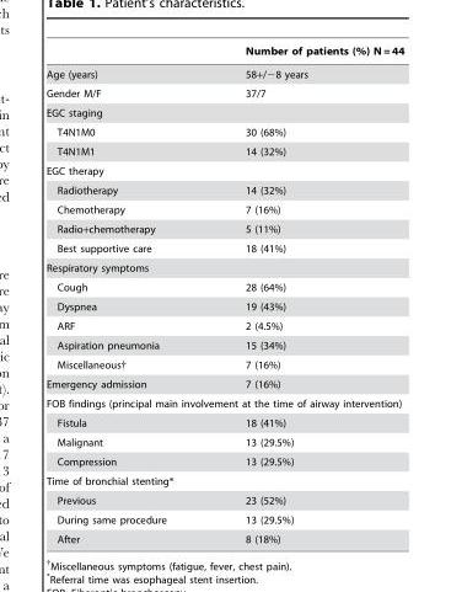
<table><thead><tr><td></td><td>Number of patients (%) N = 44</td></tr></thead><tbody><tr><td>Age (years)</td><td>58+/−8 years</td></tr><tr><td>Gender M/F</td><td>37/7</td></tr><tr><td colspan="2">EGC staging</td></tr><tr><td>T4N1M0</td><td>30 (68%)</td></tr><tr><td>T4N1M1</td><td>14 (32%)</td></tr><tr><td colspan="2">EGC therapy</td></tr><tr><td>Radiotherapy</td><td>14 (32%)</td></tr><tr><td>Chemotherapy</td><td>7 (16%)</td></tr><tr><td>Radio+chemotherapy</td><td>5 (11%)</td></tr><tr><td>Best supportive care</td><td>18 (41%)</td></tr><tr><td colspan="2">Respiratory symptoms</td></tr><tr><td>Cough</td><td>28 (64%)</td></tr><tr><td>Dyspnea</td><td>19 (43%)</td></tr><tr><td>ARF</td><td>2 (4.5%)</td></tr><tr><td>Aspiration pneumonia</td><td>15 (34%)</td></tr><tr><td>Miscellaneous†</td><td>7 (16%)</td></tr><tr><td>Emergency admission</td><td>7 (16%)</td></tr><tr><td colspan="2">FOB findings (principal main involvement at the time of airway intervention)</td></tr><tr><td>Fistula</td><td>18 (41%)</td></tr><tr><td>Malignant</td><td>13 (29.5%)</td></tr><tr><td>Compression</td><td>13 (29.5%)</td></tr><tr><td colspan="2">Time of bronchial stenting*</td></tr><tr><td>Previous</td><td>23 (52%)</td></tr><tr><td>During same procedure</td><td>13 (29.5%)</td></tr><tr><td>After</td><td>8 (18%)</td></tr></tbody></table>